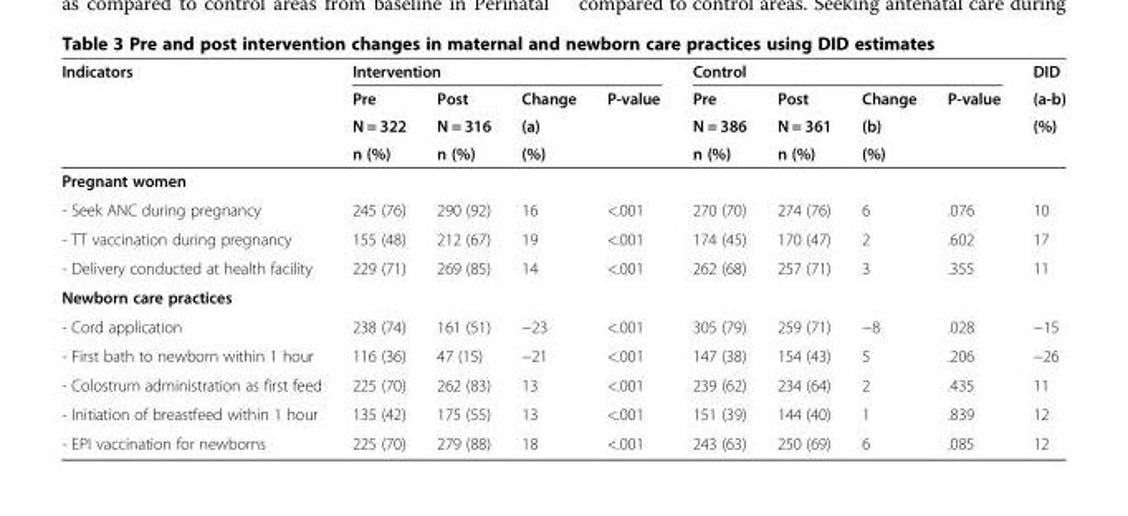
<table><thead><tr><td rowspan="4">Indicators</td><td colspan="4">Intervention</td><td colspan="4">Control</td><td rowspan="4">DID (a-b) (%)</td></tr><tr><td rowspan="3">Pre N = 322 n (%)</td><td rowspan="3">Post N = 316 n (%)</td><td rowspan="3">Change (a) (%)</td><td rowspan="3">P-value</td><td rowspan="3">Pre N = 386 n (%)</td><td rowspan="3">Post N = 361 n (%)</td><td rowspan="3">Change (b) (%)</td><td rowspan="3">P-value</td></tr><tr></tr><tr></tr></thead><tbody><tr><td colspan="10">Pregnant women</td></tr><tr><td>- Seek ANC during pregnancy</td><td>245 (76)</td><td>290 (92)</td><td>16</td><td>&lt;.001</td><td>270 (70)</td><td>274 (76)</td><td>6</td><td>.076</td><td>10</td></tr><tr><td>- TT vaccination during pregnancy</td><td>155 (48)</td><td>212 (67)</td><td>19</td><td>&lt;.001</td><td>174 (45)</td><td>170 (47)</td><td>2</td><td>.602</td><td>17</td></tr><tr><td>- Delivery conducted at health facility</td><td>229 (71)</td><td>269 (85)</td><td>14</td><td>&lt;.001</td><td>262 (68)</td><td>257 (71)</td><td>3</td><td>.355</td><td>11</td></tr><tr><td colspan="10">Newborn care practices</td></tr><tr><td>- Cord application</td><td>238 (74)</td><td>161 (51)</td><td>−23</td><td>&lt;.001</td><td>305 (79)</td><td>259 (71)</td><td>−8</td><td>.028</td><td>−15</td></tr><tr><td>- First bath to newborn within 1 hour</td><td>116 (36)</td><td>47 (15)</td><td>−21</td><td>&lt;.001</td><td>147 (38)</td><td>154 (43)</td><td>5</td><td>.206</td><td>−26</td></tr><tr><td>- Colostrum administration as first feed</td><td>225 (70)</td><td>262 (83)</td><td>13</td><td>&lt;.001</td><td>239 (62)</td><td>234 (64)</td><td>2</td><td>.435</td><td>11</td></tr><tr><td>- Initiation of breastfeed within 1 hour</td><td>135 (42)</td><td>175 (55)</td><td>13</td><td>&lt;.001</td><td>151 (39)</td><td>144 (40)</td><td>1</td><td>.839</td><td>12</td></tr><tr><td>- EPI vaccination for newborns</td><td>225 (70)</td><td>279 (88)</td><td>18</td><td>&lt;.001</td><td>243 (63)</td><td>250 (69)</td><td>6</td><td>.085</td><td>12</td></tr></tbody></table>